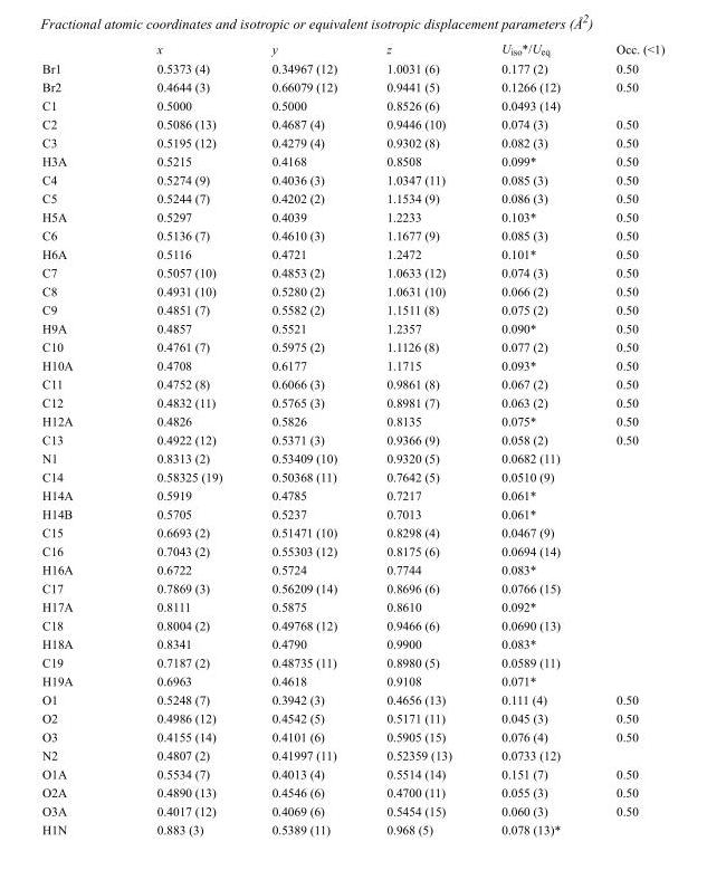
<table><thead><tr><td></td><td>x</td><td>y</td><td>z</td><td>U<sub>iso</sub>*/U<sub>eq</sub></td><td>Occ. (&lt;1)</td></tr></thead><tbody><tr><td>Br1</td><td>0.5373 (4)</td><td>0.34967 (12)</td><td>1.0031 (6)</td><td>0.177 (2)</td><td>0.50</td></tr><tr><td>Br2</td><td>0.4644 (3)</td><td>0.66079 (12)</td><td>0.9441 (5)</td><td>0.1266 (12)</td><td>0.50</td></tr><tr><td>C1</td><td>0.5000</td><td>0.5000</td><td>0.8526 (6)</td><td>0.0493 (14)</td><td></td></tr><tr><td>C2</td><td>0.5086 (13)</td><td>0.4687 (4)</td><td>0.9446 (10)</td><td>0.074 (3)</td><td>0.50</td></tr><tr><td>C3</td><td>0.5195 (12)</td><td>0.4279 (4)</td><td>0.9302 (8)</td><td>0.082 (3)</td><td>0.50</td></tr><tr><td>H3A</td><td>0.5215</td><td>0.4168</td><td>0.8508</td><td>0.099*</td><td>0.50</td></tr><tr><td>C4</td><td>0.5274 (9)</td><td>0.4036 (3)</td><td>1.0347 (11)</td><td>0.085 (3)</td><td>0.50</td></tr><tr><td>C5</td><td>0.5244 (7)</td><td>0.4202 (2)</td><td>1.1534 (9)</td><td>0.086 (3)</td><td>0.50</td></tr><tr><td>H5A</td><td>0.5297</td><td>0.4039</td><td>1.2233</td><td>0.103*</td><td>0.50</td></tr><tr><td>C6</td><td>0.5136 (7)</td><td>0.4610 (3)</td><td>1.1677 (9)</td><td>0.085 (3)</td><td>0.50</td></tr><tr><td>H6A</td><td>0.5116</td><td>0.4721</td><td>1.2472</td><td>0.101*</td><td>0.50</td></tr><tr><td>C7</td><td>0.5057 (10)</td><td>0.4853 (2)</td><td>1.0633 (12)</td><td>0.074 (3)</td><td>0.50</td></tr><tr><td>C8</td><td>0.4931 (10)</td><td>0.5280 (2)</td><td>1.0631 (10)</td><td>0.066 (2)</td><td>0.50</td></tr><tr><td>C9</td><td>0.4851 (7)</td><td>0.5582 (2)</td><td>1.1511 (8)</td><td>0.075 (2)</td><td>0.50</td></tr><tr><td>H9A</td><td>0.4857</td><td>0.5521</td><td>1.2357</td><td>0.090*</td><td>0.50</td></tr><tr><td>C10</td><td>0.4761 (7)</td><td>0.5975 (2)</td><td>1.1126 (8)</td><td>0.077 (2)</td><td>0.50</td></tr><tr><td>H10A</td><td>0.4708</td><td>0.6177</td><td>1.1715</td><td>0.093*</td><td>0.50</td></tr><tr><td>C11</td><td>0.4752 (8)</td><td>0.6066 (3)</td><td>0.9861 (8)</td><td>0.067 (2)</td><td>0.50</td></tr><tr><td>C12</td><td>0.4832 (11)</td><td>0.5765 (3)</td><td>0.8981 (7)</td><td>0.063 (2)</td><td>0.50</td></tr><tr><td>H12A</td><td>0.4826</td><td>0.5826</td><td>0.8135</td><td>0.075*</td><td>0.50</td></tr><tr><td>C13</td><td>0.4922 (12)</td><td>0.5371 (3)</td><td>0.9366 (9)</td><td>0.058 (2)</td><td>0.50</td></tr><tr><td>N1</td><td>0.8313 (2)</td><td>0.53409 (10)</td><td>0.9320 (5)</td><td>0.0682 (11)</td><td></td></tr><tr><td>C14</td><td>0.58325 (19)</td><td>0.50368 (11)</td><td>0.7642 (5)</td><td>0.0510 (9)</td><td></td></tr><tr><td>H14A</td><td>0.5919</td><td>0.4785</td><td>0.7217</td><td>0.061*</td><td></td></tr><tr><td>H14B</td><td>0.5705</td><td>0.5237</td><td>0.7013</td><td>0.061*</td><td></td></tr><tr><td>C15</td><td>0.6693 (2)</td><td>0.51471 (10)</td><td>0.8298 (4)</td><td>0.0467 (9)</td><td></td></tr><tr><td>C16</td><td>0.7043 (2)</td><td>0.55303 (12)</td><td>0.8175 (6)</td><td>0.0694 (14)</td><td></td></tr><tr><td>H16A</td><td>0.6722</td><td>0.5724</td><td>0.7744</td><td>0.083*</td><td></td></tr><tr><td>C17</td><td>0.7869 (3)</td><td>0.56209 (14)</td><td>0.8696 (6)</td><td>0.0766 (15)</td><td></td></tr><tr><td>H17A</td><td>0.8111</td><td>0.5875</td><td>0.8610</td><td>0.092*</td><td></td></tr><tr><td>C18</td><td>0.8004 (2)</td><td>0.49768 (12)</td><td>0.9466 (6)</td><td>0.0690 (13)</td><td></td></tr><tr><td>H18A</td><td>0.8341</td><td>0.4790</td><td>0.9900</td><td>0.083*</td><td></td></tr><tr><td>C19</td><td>0.7187 (2)</td><td>0.48735 (11)</td><td>0.8980 (5)</td><td>0.0589 (11)</td><td></td></tr><tr><td>H19A</td><td>0.6963</td><td>0.4618</td><td>0.9108</td><td>0.071*</td><td></td></tr><tr><td>O1</td><td>0.5248 (7)</td><td>0.3942 (3)</td><td>0.4656 (13)</td><td>0.111 (4)</td><td>0.50</td></tr><tr><td>O2</td><td>0.4986 (12)</td><td>0.4542 (5)</td><td>0.5171 (11)</td><td>0.045 (3)</td><td>0.50</td></tr><tr><td>O3</td><td>0.4155 (14)</td><td>0.4101 (6)</td><td>0.5905 (15)</td><td>0.076 (4)</td><td>0.50</td></tr><tr><td>N2</td><td>0.4807 (2)</td><td>0.41997 (11)</td><td>0.52359 (13)</td><td>0.0733 (12)</td><td></td></tr><tr><td>O1A</td><td>0.5534 (7)</td><td>0.4013 (4)</td><td>0.5514 (14)</td><td>0.151 (7)</td><td>0.50</td></tr><tr><td>O2A</td><td>0.4890 (13)</td><td>0.4546 (6)</td><td>0.4700 (11)</td><td>0.055 (3)</td><td>0.50</td></tr><tr><td>O3A</td><td>0.4017 (12)</td><td>0.4069 (6)</td><td>0.5454 (15)</td><td>0.060 (3)</td><td>0.50</td></tr><tr><td>H1N</td><td>0.883 (3)</td><td>0.5389 (11)</td><td>0.968 (5)</td><td>0.078 (13)*</td><td></td></tr></tbody></table>